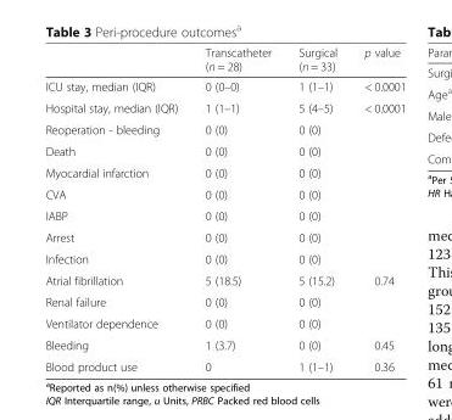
<table><thead><tr><td></td><td>Transcatheter (n = 28)</td><td>Surgical (n = 33)</td><td>p value</td></tr></thead><tbody><tr><td>ICU stay, median (IQR)</td><td>0 (0–0)</td><td>1 (1–1)</td><td>&lt; 0.0001</td></tr><tr><td>Hospital stay, median (IQR)</td><td>1 (1–1)</td><td>5 (4–5)</td><td>&lt; 0.0001</td></tr><tr><td>Reoperation - bleeding</td><td>0 (0)</td><td>0 (0)</td><td></td></tr><tr><td>Death</td><td>0 (0)</td><td>0 (0)</td><td></td></tr><tr><td>Myocardial infarction</td><td>0 (0)</td><td>0 (0)</td><td></td></tr><tr><td>CVA</td><td>0 (0)</td><td>0 (0)</td><td></td></tr><tr><td>IABP</td><td>0 (0)</td><td>0 (0)</td><td></td></tr><tr><td>Arrest</td><td>0 (0)</td><td>0 (0)</td><td></td></tr><tr><td>Infection</td><td>0 (0)</td><td>0 (0)</td><td></td></tr><tr><td>Atrial fibrillation</td><td>5 (18.5)</td><td>5 (15.2)</td><td>0.74</td></tr><tr><td>Renal failure</td><td>0 (0)</td><td>0 (0)</td><td></td></tr><tr><td>Ventilator dependence</td><td>0 (0)</td><td>0 (0)</td><td></td></tr><tr><td>Bleeding</td><td>1 (3.7)</td><td>0 (0)</td><td>0.45</td></tr><tr><td>Blood product use</td><td>0</td><td>1 (1–1)</td><td>0.36</td></tr></tbody></table>